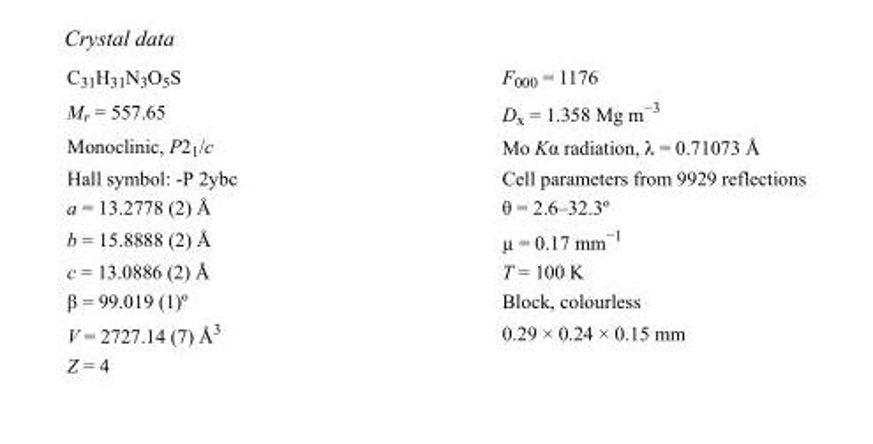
<table><tbody><tr><td>C<sub>31</sub>H<sub>31</sub>N<sub>3</sub>O<sub>5</sub>S</td><td>F000 = 1176</td></tr><tr><td>M<sub>r</sub> = 557.65</td><td>D<sub>x</sub> = 1.358 Mg m<sup>−3</sup></td></tr><tr><td>Monoclinic, P2<sub>1</sub>/c</td><td>Mo Kα radiation, λ = 0.71073 Å</td></tr><tr><td>Hall symbol: -P 2ybc</td><td>Cell parameters from 9929 reflections</td></tr><tr><td>a = 13.2778 (2) Å</td><td>θ = 2.6–32.3º</td></tr><tr><td>b = 15.8888 (2) Å</td><td>µ = 0.17 mm<sup>−1</sup></td></tr><tr><td>c = 13.0886 (2) Å</td><td>T = 100 K</td></tr><tr><td>β = 99.019 (1)º</td><td>Block, colourless</td></tr><tr><td>V = 2727.14 (7) Å<sup>3</sup></td><td>0.29 × 0.24 × 0.15 mm</td></tr><tr><td>Z = 4</td><td></td></tr></tbody></table>